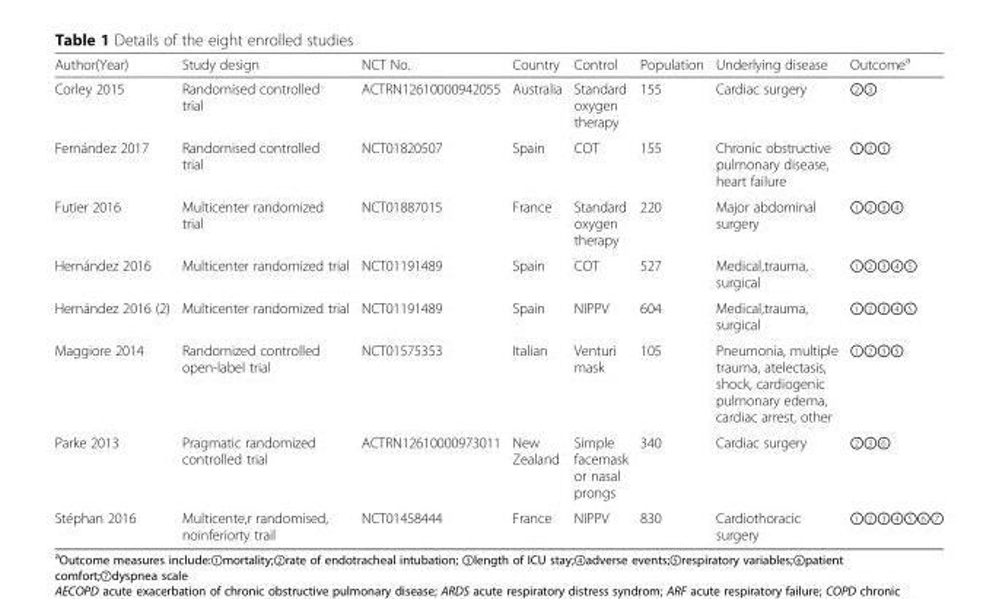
<table><thead><tr><td>Author(Year)</td><td>Study design</td><td>NCT No.</td><td>Country</td><td>Control</td><td>Population</td><td>Underlying disease</td><td>Outcome<sup>a</sup></td></tr></thead><tbody><tr><td>Corley 2015</td><td>Randomised controlled trial</td><td>ACTRN12610000942055</td><td>Australia</td><td>Standard oxygen therapy</td><td>155</td><td>Cardiac surgery</td><td>②③</td></tr><tr><td>Fernández 2017</td><td>Randomised controlled trial</td><td>NCT01820507</td><td>Spain</td><td>COT</td><td>155</td><td>Chronic obstructive pulmonary disease, heart failure</td><td>①②③</td></tr><tr><td>Futier 2016</td><td>Multicenter randomized trial</td><td>NCT01887015</td><td>France</td><td>Standard oxygen therapy</td><td>220</td><td>Major abdominal surgery</td><td>①②③④</td></tr><tr><td>Hernández 2016</td><td>Multicenter randomized trial</td><td>NCT01191489</td><td>Spain</td><td>COT</td><td>527</td><td>Medical,trauma, surgical</td><td>①②③④⑤</td></tr><tr><td>Hernández 2016 (2)</td><td>Multicenter randomized trial</td><td>NCT01191489</td><td>Spain</td><td>NIPPV</td><td>604</td><td>Medical,trauma, surgical</td><td>①②③④⑤</td></tr><tr><td>Maggiore 2014</td><td>Randomized controlled open-label trial</td><td>NCT01575353</td><td>Italian</td><td>Venturi mask</td><td>105</td><td>Pneumonia, multiple trauma, atelectasis, shock, cardiogenic pulmonary edema, cardiac arrest, other</td><td>①②③⑤</td></tr><tr><td>Parke 2013</td><td>Pragmatic randomized controlled trial</td><td>ACTRN12610000973011</td><td>New Zealand</td><td>Simple facemask or nasal prongs</td><td>340</td><td>Cardiac surgery</td><td>②③⑥</td></tr><tr><td>Stéphan 2016</td><td>Multicente,r randomised, noinferiorty trail</td><td>NCT01458444</td><td>France</td><td>NIPPV</td><td>830</td><td>Cardiothoracic surgery</td><td>①②③④⑤⑥⑦</td></tr></tbody></table>